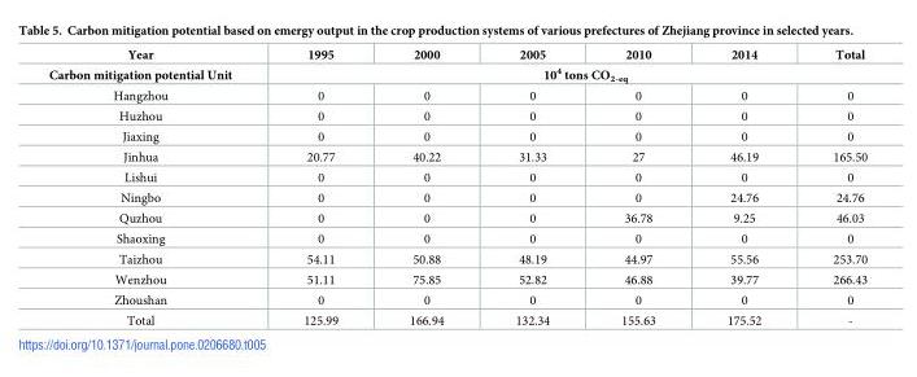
<table><thead><tr><td rowspan="2">Year Carbon mitigation potential Unit</td><td>1995</td><td>2000</td><td>2005</td><td>2010</td><td>2014</td><td>Total</td></tr><tr><td colspan="6">10<sup>4</sup> tons CO<sub>2-eq</sub></td></tr></thead><tbody><tr><td>Hangzhou</td><td>0</td><td>0</td><td>0</td><td>0</td><td>0</td><td>0</td></tr><tr><td>Huzhou</td><td>0</td><td>0</td><td>0</td><td>0</td><td>0</td><td>0</td></tr><tr><td>Jiaxing</td><td>0</td><td>0</td><td>0</td><td>0</td><td>0</td><td>0</td></tr><tr><td>Jinhua</td><td>20.77</td><td>40.22</td><td>31.33</td><td>27</td><td>46.19</td><td>165.50</td></tr><tr><td>Lishui</td><td>0</td><td>0</td><td>0</td><td>0</td><td>0</td><td>0</td></tr><tr><td>Ningbo</td><td>0</td><td>0</td><td>0</td><td>0</td><td>24.76</td><td>24.76</td></tr><tr><td>Quzhou</td><td>0</td><td>0</td><td>0</td><td>36.78</td><td>9.25</td><td>46.03</td></tr><tr><td>Shaoxing</td><td>0</td><td>0</td><td>0</td><td>0</td><td>0</td><td>0</td></tr><tr><td>Taizhou</td><td>54.11</td><td>50.88</td><td>48.19</td><td>44.97</td><td>55.56</td><td>253.70</td></tr><tr><td>Wenzhou</td><td>51.11</td><td>75.85</td><td>52.82</td><td>46.88</td><td>39.77</td><td>266.43</td></tr><tr><td>Zhoushan</td><td>0</td><td>0</td><td>0</td><td>0</td><td>0</td><td>0</td></tr><tr><td>Total</td><td>125.99</td><td>166.94</td><td>132.34</td><td>155.63</td><td>175.52</td><td>-</td></tr></tbody></table>